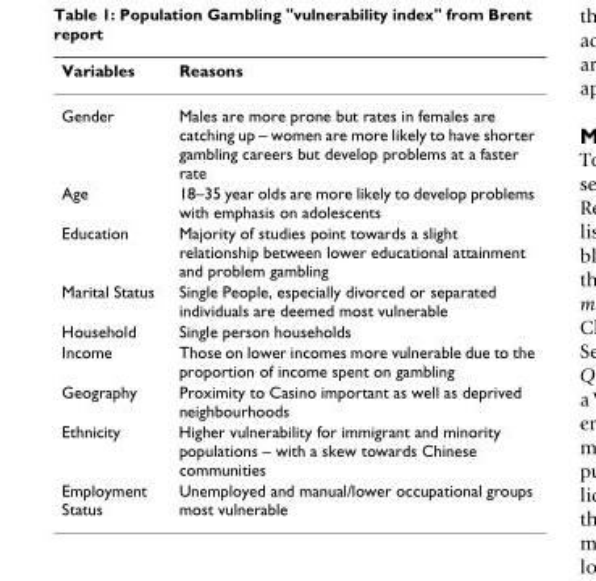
<table><thead><tr><td>Variables</td><td>Reasons</td></tr></thead><tbody><tr><td>Gender</td><td>Males are more prone but rates in females are catching up – women are more likely to have shorter gambling careers but develop problems at a faster rate</td></tr><tr><td>Age</td><td>18–35 year olds are more likely to develop problems with emphasis on adolescents</td></tr><tr><td>Education</td><td>Majority of studies point towards a slight relationship between lower educational attainment and problem gambling</td></tr><tr><td>Marital Status</td><td>Single People, especially divorced or separated individuals are deemed most vulnerable</td></tr><tr><td>Household</td><td>Single person households</td></tr><tr><td>Income</td><td>Those on lower incomes more vulnerable due to the proportion of income spent on gambling</td></tr><tr><td>Geography</td><td>Proximity to Casino important as well as deprived neighbourhoods</td></tr><tr><td>Ethnicity</td><td>Higher vulnerability for immigrant and minority populations – with a skew towards Chinese communities</td></tr><tr><td>Employment Status</td><td>Unemployed and manual/lower occupational groups most vulnerable</td></tr></tbody></table>